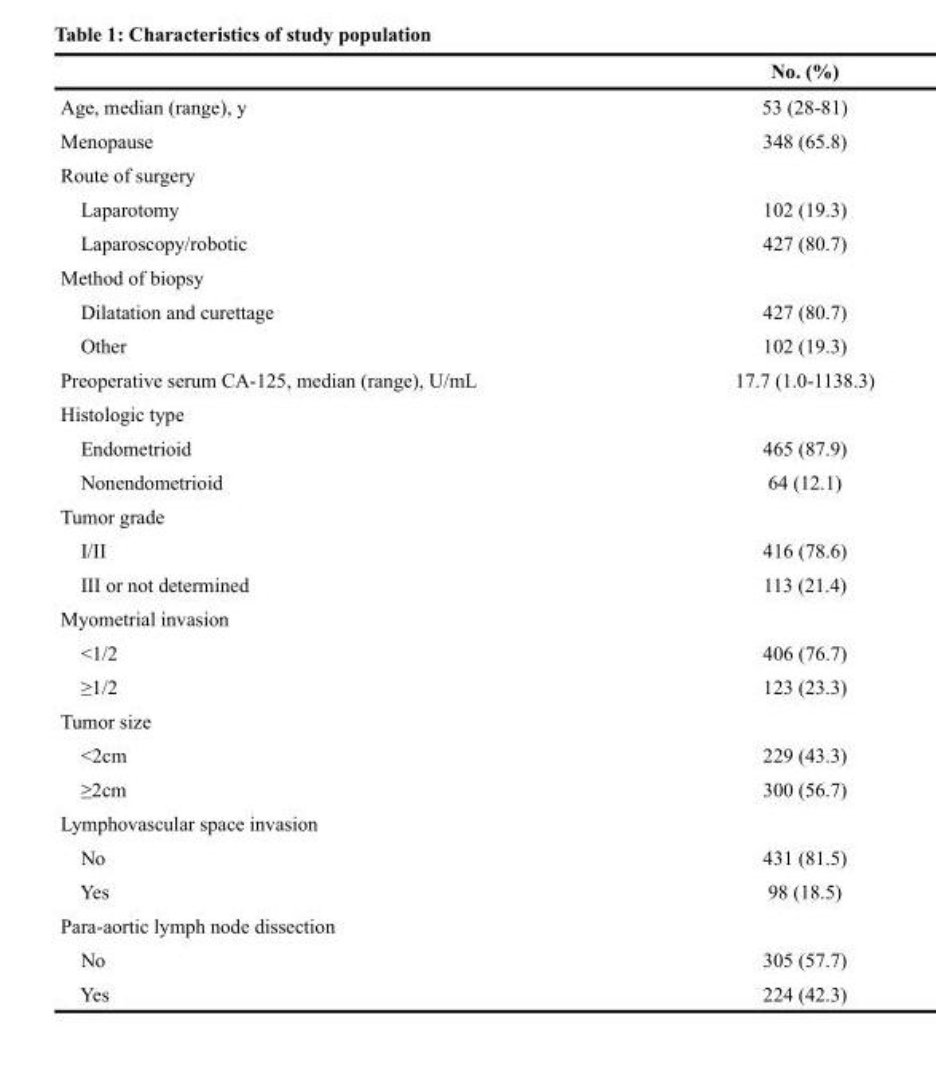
<table><thead><tr><td></td><td>No. (%)</td></tr></thead><tbody><tr><td>Age, median (range), y</td><td>53 (28-81)</td></tr><tr><td>Menopause</td><td>348 (65.8)</td></tr><tr><td colspan="2">Route of surgery</td></tr><tr><td>Laparotomy</td><td>102 (19.3)</td></tr><tr><td>Laparoscopy/robotic</td><td>427 (80.7)</td></tr><tr><td colspan="2">Method of biopsy</td></tr><tr><td>Dilatation and curettage</td><td>427 (80.7)</td></tr><tr><td>Other</td><td>102 (19.3)</td></tr><tr><td>Preoperative serum CA-125, median (range), U/mL</td><td>17.7 (1.0-1138.3)</td></tr><tr><td colspan="2">Histologic type</td></tr><tr><td>Endometrioid</td><td>465 (87.9)</td></tr><tr><td>Nonendometrioid</td><td>64 (12.1)</td></tr><tr><td colspan="2">Tumor grade</td></tr><tr><td>I/II</td><td>416 (78.6)</td></tr><tr><td>III or not determined</td><td>113 (21.4)</td></tr><tr><td colspan="2">Myometrial invasion</td></tr><tr><td>&lt;1/2</td><td>406 (76.7)</td></tr><tr><td>≥1/2</td><td>123 (23.3)</td></tr><tr><td colspan="2">Tumor size</td></tr><tr><td>&lt;2cm</td><td>229 (43.3)</td></tr><tr><td>≥2cm</td><td>300 (56.7)</td></tr><tr><td colspan="2">Lymphovascular space invasion</td></tr><tr><td>No</td><td>431 (81.5)</td></tr><tr><td>Yes</td><td>98 (18.5)</td></tr><tr><td colspan="2">Para-aortic lymph node dissection</td></tr><tr><td>No</td><td>305 (57.7)</td></tr><tr><td>Yes</td><td>224 (42.3)</td></tr></tbody></table>